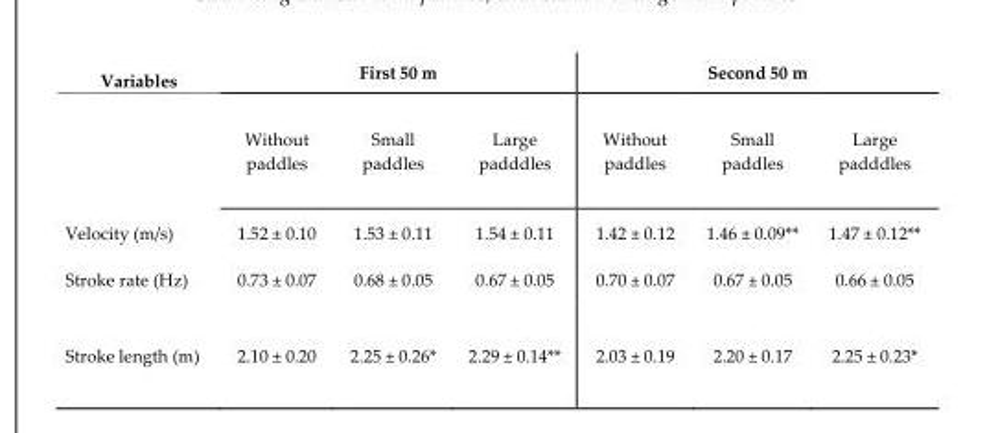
<table><thead><tr><td rowspan="2">Variables</td><td colspan="3">First 50 m</td><td colspan="3">Second 50 m</td></tr><tr><td>Without paddles</td><td>Small paddles</td><td>Large padddles</td><td>Without paddles</td><td>Small paddles</td><td>Large padddles</td></tr></thead><tbody><tr><td>Velocity (m/s)</td><td>1.52 ± 0.10</td><td>1.53 ± 0.11</td><td>1.54 ± 0.11</td><td>1.42 ± 0.12</td><td>1.46 ± 0.09**</td><td>1.47 ± 0.12**</td></tr><tr><td>Stroke rate (Hz)</td><td>0.73 ± 0.07</td><td>0.68 ± 0.05</td><td>0.67 ± 0.05</td><td>0.70 ± 0.07</td><td>0.67 ± 0.05</td><td>0.66 ± 0.05</td></tr><tr><td>Stroke length (m)</td><td>2.10 ± 0.20</td><td>2.25 ± 0.26*</td><td>2.29 ± 0.14**</td><td>2.03 ± 0.19</td><td>2.20 ± 0.17</td><td>2.25 ± 0.23*</td></tr></tbody></table>